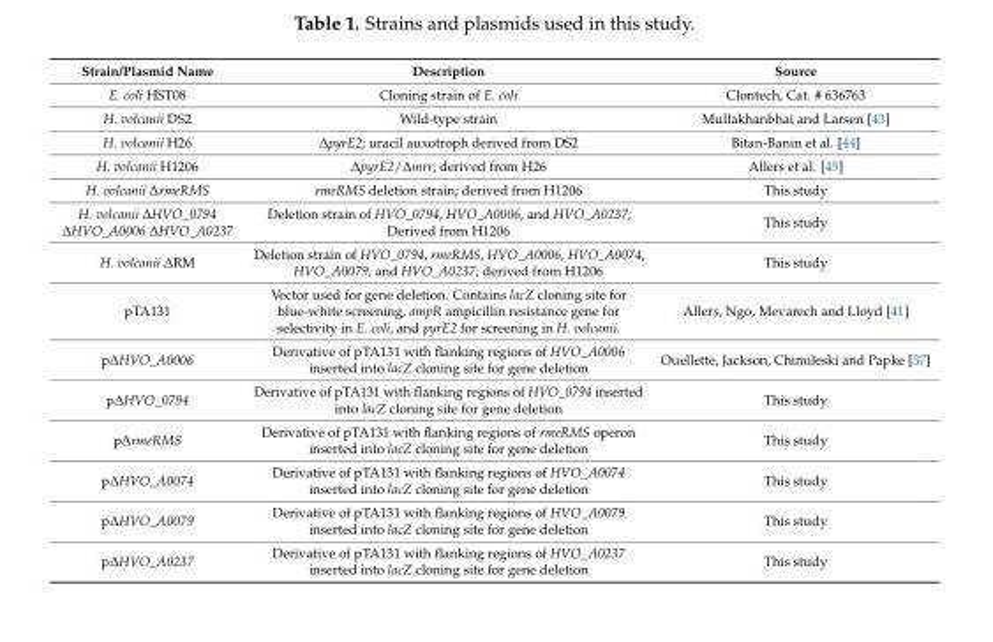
<table><thead><tr><td>Strain/Plasmid Name</td><td>Description</td><td>Source</td></tr></thead><tbody><tr><td>E. coli HST08</td><td>Cloning strain of E. coli</td><td>Clontech, Cat. # 636763</td></tr><tr><td>H. volcanii DS2</td><td>Wild-type strain</td><td>Mullakhanbhai and Larsen [43]</td></tr><tr><td>H. volcanii H26</td><td>∆pyrE2; uracil auxotroph derived from DS2</td><td>Bitan-Banin et al. [44]</td></tr><tr><td>H. volcanii H1206</td><td>∆pyrE2/∆mrr; derived from H26</td><td>Allers et al. [45]</td></tr><tr><td>H. volcanii ∆rmeRMS</td><td>rmeRMS deletion strain; derived from H1206</td><td>This study</td></tr><tr><td>H. volcanii ∆HVO_0794 ∆HVO_A0006 ∆HVO_A0237</td><td>Deletion strain of HVO_0794, HVO_A0006, and HVO_A0237; Derived from H1206</td><td>This study</td></tr><tr><td>H. volcanii ∆RM</td><td>Deletion strain of HVO_0794, rmeRMS, HVO_A0006, HVO_A0074, HVO_A0079, and HVO_A0237; derived from H1206</td><td>This study</td></tr><tr><td>pTA131</td><td>Vector used for gene deletion. Contains lacZ cloning site for blue-white screening, ampR ampicillin resistance gene for selectivity in E. coli, and pyrE2 for screening in H. volcanii.</td><td>Allers, Ngo, Mevarech and Lloyd [41]</td></tr><tr><td>p∆HVO_A0006</td><td>Derivative of pTA131 with flanking regions of HVO_A0006 inserted into lacZ cloning site for gene deletion</td><td>Ouellette, Jackson, Chimileski and Papke [37]</td></tr><tr><td>p∆HVO_0794</td><td>Derivative of pTA131 with flanking regions of HVO_0794 inserted into lacZ cloning site for gene deletion</td><td>This study</td></tr><tr><td>p∆rmeRMS</td><td>Derivative of pTA131 with flanking regions of rmeRMS operon inserted into lacZ cloning site for gene deletion</td><td>This study</td></tr><tr><td>p∆HVO_A0074</td><td>Derivative of pTA131 with flanking regions of HVO_A0074 inserted into lacZ cloning site for gene deletion</td><td>This study</td></tr><tr><td>p∆HVO_A0079</td><td>Derivative of pTA131 with flanking regions of HVO_A0079 inserted into lacZ cloning site for gene deletion</td><td>This study</td></tr><tr><td>p∆HVO_A0237</td><td>Derivative of pTA131 with flanking regions of HVO_A0237 inserted into lacZ cloning site for gene deletion</td><td>This study</td></tr></tbody></table>